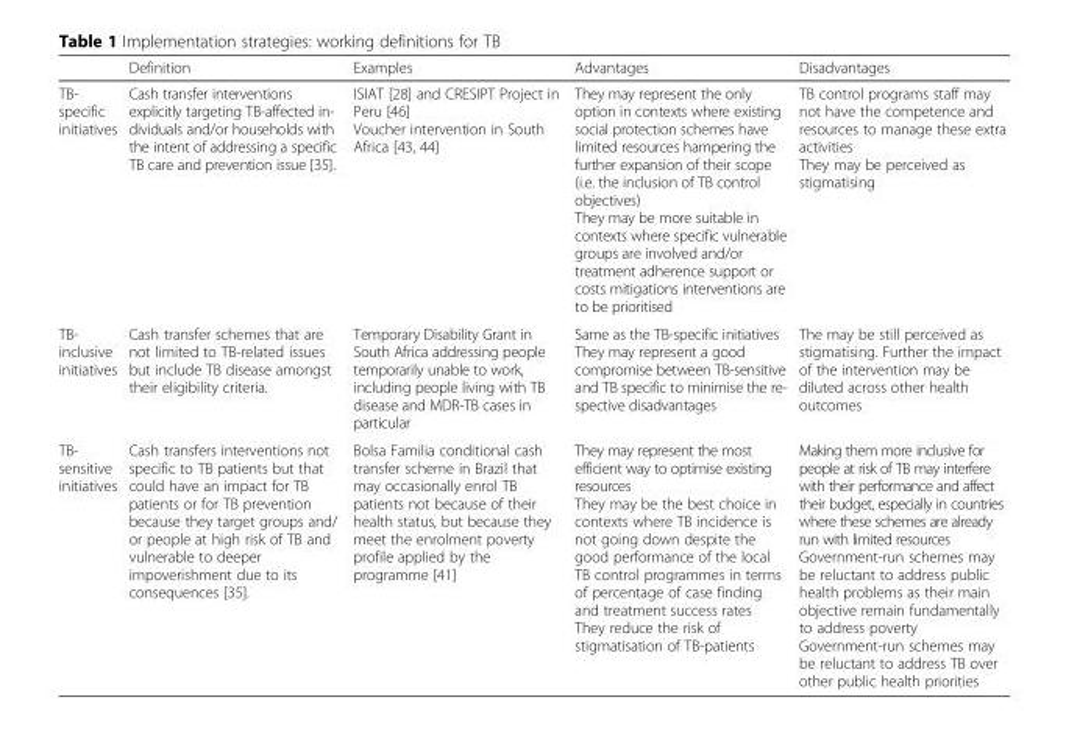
<table><thead><tr><td></td><td>Definition</td><td>Examples</td><td>Advantages</td><td>Disadvantages</td></tr></thead><tbody><tr><td>TB- specific initiatives</td><td>Cash transfer interventions explicitly targeting TB-affected in- dividuals and/or households with the intent of addressing a specific TB care and prevention issue [35].</td><td>ISIAT [28] and CRESIPT Project in Peru [46] Voucher intervention in South Africa [43, 44]</td><td>They may represent the only option in contexts where existing social protection schemes have limited resources hampering the further expansion of their scope (i.e. the inclusion of TB control objectives) They may be more suitable in contexts where specific vulnerable groups are involved and/or treatment adherence support or costs mitigations interventions are to be prioritised</td><td>TB control programs staff may not have the competence and resources to manage these extra activities They may be perceived as stigmatising</td></tr><tr><td>TB- inclusive initiatives</td><td>Cash transfer schemes that are not limited to TB-related issues but include TB disease amongst their eligibility criteria.</td><td>Temporary Disability Grant in South Africa addressing people temporarily unable to work, including people living with TB disease and MDR-TB cases in particular</td><td>Same as the TB-specific initiatives They may represent a good compromise between TB-sensitive and TB specific to minimise the re- spective disadvantages</td><td>The may be still perceived as stigmatising. Further the impact of the intervention may be diluted across other health outcomes</td></tr><tr><td>TB- sensitive initiatives</td><td>Cash transfers interventions not specific to TB patients but that could have an impact for TB patients or for TB prevention because they target groups and/ or people at high risk of TB and vulnerable to deeper impoverishment due to its consequences [35].</td><td>Bolsa Familia conditional cash transfer scheme in Brazil that may occasionally enrol TB patients not because of their health status, but because they meet the enrolment poverty profile applied by the programme [41]</td><td>They may represent the most efficient way to optimise existing resources They may be the best choice in contexts where TB incidence is not going down despite the good performance of the local TB control programmes in terms of percentage of case finding and treatment success rates They reduce the risk of stigmatisation of TB-patients</td><td>Making them more inclusive for people at risk of TB may interfere with their performance and affect their budget, especially in countries where these schemes are already run with limited resources Government-run schemes may be reluctant to address public health problems as their main objective remain fundamentally to address poverty Government-run schemes may be reluctant to address TB over other public health priorities</td></tr></tbody></table>